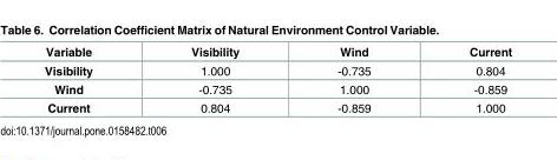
<table><thead><tr><td>Variable</td><td>Visibility</td><td>Wind</td><td>Current</td></tr></thead><tbody><tr><td>Visibility</td><td>1.000</td><td>-0.735</td><td>0.804</td></tr><tr><td>Wind</td><td>-0.735</td><td>1.000</td><td>-0.859</td></tr><tr><td>Current</td><td>0.804</td><td>-0.859</td><td>1.000</td></tr></tbody></table>